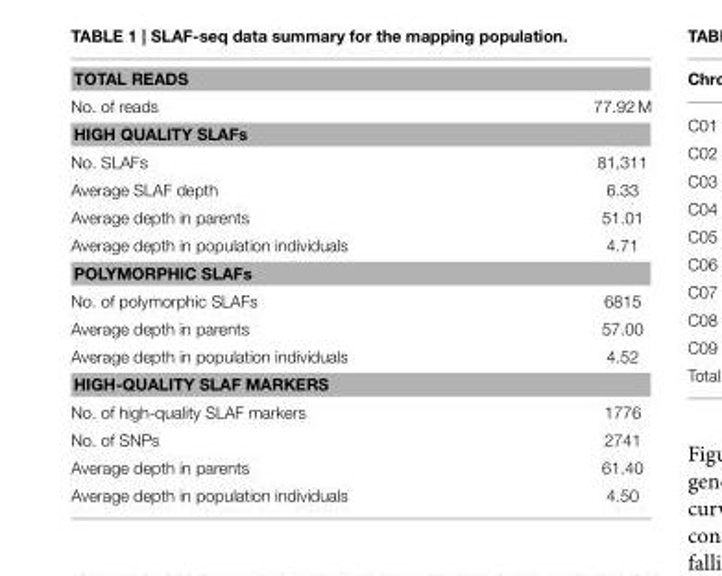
<table><tbody><tr><td colspan="2">TOTAL READS</td></tr><tr><td>No. of reads</td><td>77.92 M</td></tr><tr><td colspan="2">HIGH QUALITY SLAFs</td></tr><tr><td>No. SLAFs</td><td>81,311</td></tr><tr><td>Average SLAF depth</td><td>6.33</td></tr><tr><td>Average depth in parents</td><td>51.01</td></tr><tr><td>Average depth in population individuals</td><td>4.71</td></tr><tr><td colspan="2">POLYMORPHIC SLAFs</td></tr><tr><td>No. of polymorphic SLAFs</td><td>6815</td></tr><tr><td>Average depth in parents</td><td>57.00</td></tr><tr><td>Average depth in population individuals</td><td>4.52</td></tr><tr><td colspan="2">HIGH-QUALITY SLAF MARKERS</td></tr><tr><td>No. of high-quality SLAF markers</td><td>1776</td></tr><tr><td>No. of SNPs</td><td>2741</td></tr><tr><td>Average depth in parents</td><td>61.40</td></tr><tr><td>Average depth in population individuals</td><td>4.50</td></tr></tbody></table>